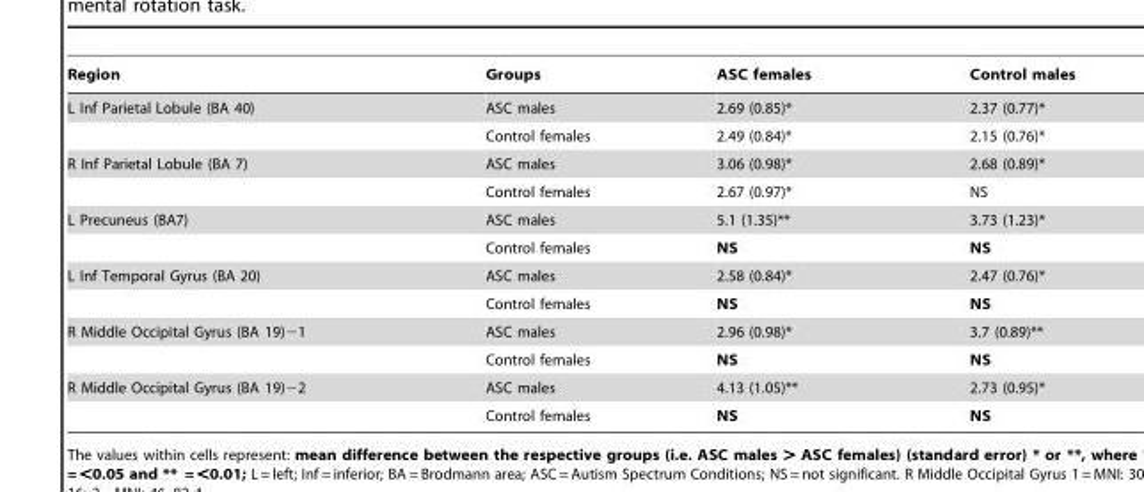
<table><thead><tr><td>Region</td><td>Groups</td><td>ASC females</td><td>Control males</td></tr></thead><tbody><tr><td rowspan="2">L Inf Parietal Lobule (BA 40)</td><td>ASC males</td><td>2.69 (0.85)*</td><td>2.37 (0.77)*</td></tr><tr><td>Control females</td><td>2.49 (0.84)*</td><td>2.15 (0.76)*</td></tr><tr><td rowspan="2">R Inf Parietal Lobule (BA 7)</td><td>ASC males</td><td>3.06 (0.98)*</td><td>2.68 (0.89)*</td></tr><tr><td>Control females</td><td>2.67 (0.97)*</td><td>NS</td></tr><tr><td rowspan="2">L Precuneus (BA7)</td><td>ASC males</td><td>5.1 (1.35)**</td><td>3.73 (1.23)*</td></tr><tr><td>Control females</td><td>NS</td><td>NS</td></tr><tr><td rowspan="2">L Inf Temporal Gyrus (BA 20)</td><td>ASC males</td><td>2.58 (0.84)*</td><td>2.47 (0.76)*</td></tr><tr><td>Control females</td><td>NS</td><td>NS</td></tr><tr><td rowspan="2">R Middle Occipital Gyrus (BA 19)−1</td><td>ASC males</td><td>2.96 (0.98)*</td><td>3.7 (0.89)**</td></tr><tr><td>Control females</td><td>NS</td><td>NS</td></tr><tr><td rowspan="2">R Middle Occipital Gyrus (BA 19)−2</td><td>ASC males</td><td>4.13 (1.05)**</td><td>2.73 (0.95)*</td></tr><tr><td>Control females</td><td>NS</td><td>NS</td></tr></tbody></table>